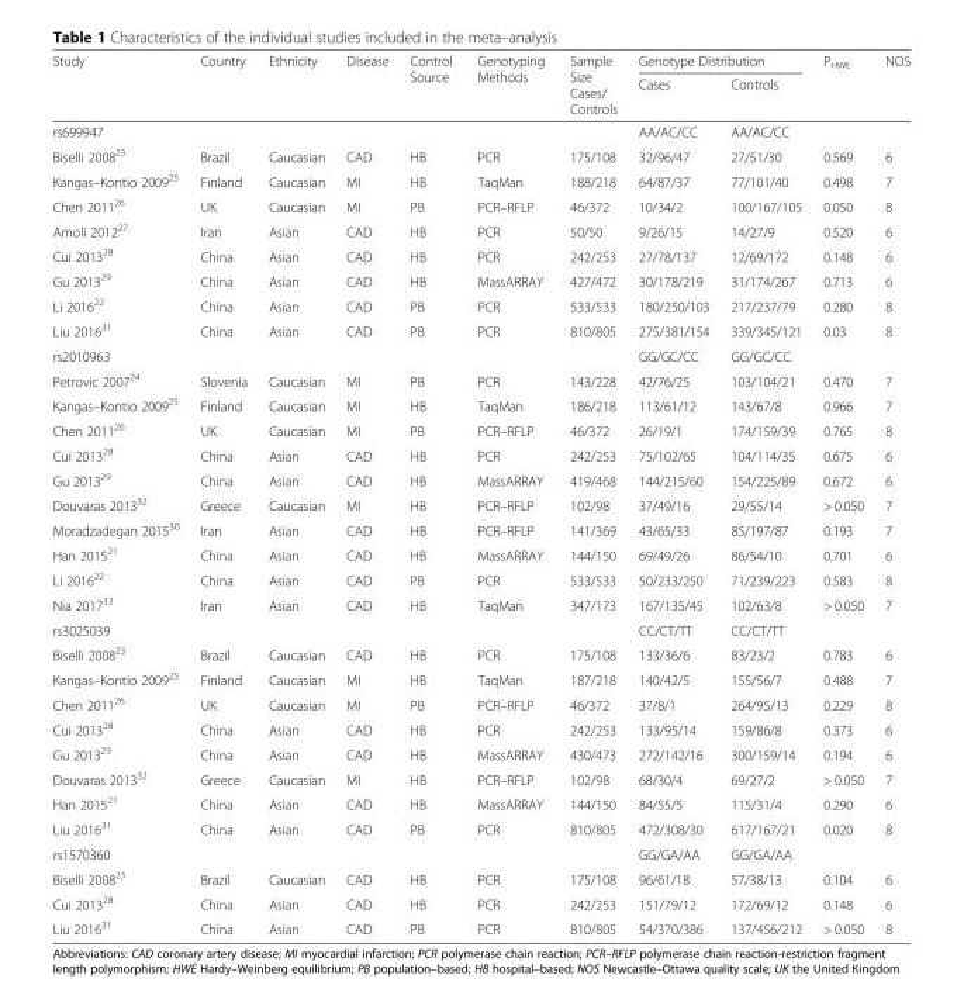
<table><thead><tr><td rowspan="2">Study</td><td rowspan="2">Country</td><td rowspan="2">Ethnicity</td><td rowspan="2">Disease</td><td rowspan="2">Control Source</td><td rowspan="2">Genotyping Methods</td><td rowspan="2">Sample Size Cases/ Controls</td><td colspan="2">Genotype Distribution</td><td rowspan="2">P<sub>HWE</sub></td><td rowspan="2">NOS</td></tr><tr><td>Cases</td><td>Controls</td></tr></thead><tbody><tr><td>rs699947</td><td></td><td></td><td></td><td></td><td></td><td></td><td>AA/AC/CC</td><td>AA/AC/CC</td><td></td><td></td></tr><tr><td>Biselli 2008<sup>23</sup></td><td>Brazil</td><td>Caucasian</td><td>CAD</td><td>HB</td><td>PCR</td><td>175/108</td><td>32/96/47</td><td>27/51/30</td><td>0.569</td><td>6</td></tr><tr><td>Kangas–Kontio 2009<sup>25</sup></td><td>Finland</td><td>Caucasian</td><td>MI</td><td>HB</td><td>TaqMan</td><td>188/218</td><td>64/87/37</td><td>77/101/40</td><td>0.498</td><td>7</td></tr><tr><td>Chen 2011<sup>26</sup></td><td>UK</td><td>Caucasian</td><td>MI</td><td>PB</td><td>PCR–RFLP</td><td>46/372</td><td>10/34/2</td><td>100/167/105</td><td>0.050</td><td>8</td></tr><tr><td>Amoli 2012<sup>27</sup></td><td>Iran</td><td>Asian</td><td>CAD</td><td>HB</td><td>PCR</td><td>50/50</td><td>9/26/15</td><td>14/27/9</td><td>0.520</td><td>6</td></tr><tr><td>Cui 2013<sup>28</sup></td><td>China</td><td>Asian</td><td>CAD</td><td>HB</td><td>PCR</td><td>242/253</td><td>27/78/137</td><td>12/69/172</td><td>0.148</td><td>6</td></tr><tr><td>Gu 2013<sup>29</sup></td><td>China</td><td>Asian</td><td>CAD</td><td>HB</td><td>MassARRAY</td><td>427/472</td><td>30/178/219</td><td>31/174/267</td><td>0.713</td><td>6</td></tr><tr><td>Li 2016<sup>22</sup></td><td>China</td><td>Asian</td><td>CAD</td><td>PB</td><td>PCR</td><td>533/533</td><td>180/250/103</td><td>217/237/79</td><td>0.280</td><td>8</td></tr><tr><td>Liu 2016<sup>31</sup></td><td>China</td><td>Asian</td><td>CAD</td><td>PB</td><td>PCR</td><td>810/805</td><td>275/381/154</td><td>339/345/121</td><td>0.03</td><td>8</td></tr><tr><td>rs2010963</td><td></td><td></td><td></td><td></td><td></td><td></td><td>GG/GC/CC</td><td>GG/GC/CC</td><td></td><td></td></tr><tr><td>Petrovic 2007<sup>24</sup></td><td>Slovenia</td><td>Caucasian</td><td>MI</td><td>PB</td><td>PCR</td><td>143/228</td><td>42/76/25</td><td>103/104/21</td><td>0.470</td><td>7</td></tr><tr><td>Kangas–Kontio 2009<sup>25</sup></td><td>Finland</td><td>Caucasian</td><td>MI</td><td>HB</td><td>TaqMan</td><td>186/218</td><td>113/61/12</td><td>143/67/8</td><td>0.966</td><td>7</td></tr><tr><td>Chen 2011<sup>26</sup></td><td>UK</td><td>Caucasian</td><td>MI</td><td>PB</td><td>PCR–RFLP</td><td>46/372</td><td>26/19/1</td><td>174/159/39</td><td>0.765</td><td>8</td></tr><tr><td>Cui 2013<sup>28</sup></td><td>China</td><td>Asian</td><td>CAD</td><td>HB</td><td>PCR</td><td>242/253</td><td>75/102/65</td><td>104/114/35</td><td>0.675</td><td>6</td></tr><tr><td>Gu 2013<sup>29</sup></td><td>China</td><td>Asian</td><td>CAD</td><td>HB</td><td>MassARRAY</td><td>419/468</td><td>144/215/60</td><td>154/225/89</td><td>0.672</td><td>6</td></tr><tr><td>Douvaras 2013<sup>32</sup></td><td>Greece</td><td>Caucasian</td><td>MI</td><td>HB</td><td>PCR–RFLP</td><td>102/98</td><td>37/49/16</td><td>29/55/14</td><td>&gt; 0.050</td><td>7</td></tr><tr><td>Moradzadegan 2015<sup>30</sup></td><td>Iran</td><td>Asian</td><td>CAD</td><td>HB</td><td>PCR–RFLP</td><td>141/369</td><td>43/65/33</td><td>85/197/87</td><td>0.193</td><td>7</td></tr><tr><td>Han 2015<sup>21</sup></td><td>China</td><td>Asian</td><td>CAD</td><td>HB</td><td>MassARRAY</td><td>144/150</td><td>69/49/26</td><td>86/54/10</td><td>0.701</td><td>6</td></tr><tr><td>Li 2016<sup>22</sup></td><td>China</td><td>Asian</td><td>CAD</td><td>PB</td><td>PCR</td><td>533/533</td><td>50/233/250</td><td>71/239/223</td><td>0.583</td><td>8</td></tr><tr><td>Nia 2017<sup>33</sup></td><td>Iran</td><td>Asian</td><td>CAD</td><td>HB</td><td>TaqMan</td><td>347/173</td><td>167/135/45</td><td>102/63/8</td><td>&gt; 0.050</td><td>7</td></tr><tr><td>rs3025039</td><td></td><td></td><td></td><td></td><td></td><td></td><td>CC/CT/TT</td><td>CC/CT/TT</td><td></td><td></td></tr><tr><td>Biselli 2008<sup>23</sup></td><td>Brazil</td><td>Caucasian</td><td>CAD</td><td>HB</td><td>PCR</td><td>175/108</td><td>133/36/6</td><td>83/23/2</td><td>0.783</td><td>6</td></tr><tr><td>Kangas–Kontio 2009<sup>25</sup></td><td>Finland</td><td>Caucasian</td><td>MI</td><td>HB</td><td>TaqMan</td><td>187/218</td><td>140/42/5</td><td>155/56/7</td><td>0.488</td><td>7</td></tr><tr><td>Chen 2011<sup>26</sup></td><td>UK</td><td>Caucasian</td><td>MI</td><td>PB</td><td>PCR–RFLP</td><td>46/372</td><td>37/8/1</td><td>264/95/13</td><td>0.229</td><td>8</td></tr><tr><td>Cui 2013<sup>28</sup></td><td>China</td><td>Asian</td><td>CAD</td><td>HB</td><td>PCR</td><td>242/253</td><td>133/95/14</td><td>159/86/8</td><td>0.373</td><td>6</td></tr><tr><td>Gu 2013<sup>29</sup></td><td>China</td><td>Asian</td><td>CAD</td><td>HB</td><td>MassARRAY</td><td>430/473</td><td>272/142/16</td><td>300/159/14</td><td>0.194</td><td>6</td></tr><tr><td>Douvaras 2013<sup>32</sup></td><td>Greece</td><td>Caucasian</td><td>MI</td><td>HB</td><td>PCR–RFLP</td><td>102/98</td><td>68/30/4</td><td>69/27/2</td><td>&gt; 0.050</td><td>7</td></tr><tr><td>Han 2015<sup>21</sup></td><td>China</td><td>Asian</td><td>CAD</td><td>HB</td><td>MassARRAY</td><td>144/150</td><td>84/55/5</td><td>115/31/4</td><td>0.290</td><td>6</td></tr><tr><td>Liu 2016<sup>31</sup></td><td>China</td><td>Asian</td><td>CAD</td><td>PB</td><td>PCR</td><td>810/805</td><td>472/308/30</td><td>617/167/21</td><td>0.020</td><td>8</td></tr><tr><td>rs1570360</td><td></td><td></td><td></td><td></td><td></td><td></td><td>GG/GA/AA</td><td>GG/GA/AA</td><td></td><td></td></tr><tr><td>Biselli 2008<sup>23</sup></td><td>Brazil</td><td>Caucasian</td><td>CAD</td><td>HB</td><td>PCR</td><td>175/108</td><td>96/61/18</td><td>57/38/13</td><td>0.104</td><td>6</td></tr><tr><td>Cui 2013<sup>28</sup></td><td>China</td><td>Asian</td><td>CAD</td><td>HB</td><td>PCR</td><td>242/253</td><td>151/79/12</td><td>172/69/12</td><td>0.148</td><td>6</td></tr><tr><td>Liu 2016<sup>31</sup></td><td>China</td><td>Asian</td><td>CAD</td><td>PB</td><td>PCR</td><td>810/805</td><td>54/370/386</td><td>137/456/212</td><td>&gt; 0.050</td><td>8</td></tr></tbody></table>